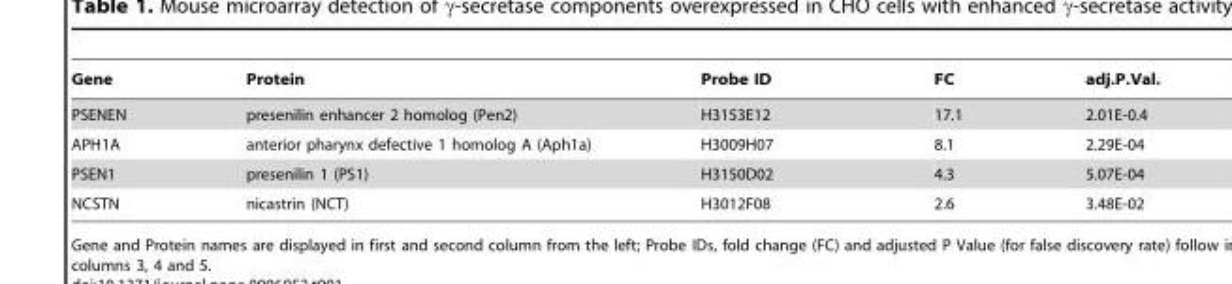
<table><thead><tr><td>Gene</td><td>Protein</td><td>Probe ID</td><td>FC</td><td>adj.P.Val.</td></tr></thead><tbody><tr><td>PSENEN</td><td>presenilin enhancer 2 homolog (Pen2)</td><td>H3153E12</td><td>17.1</td><td>2.01E-0.4</td></tr><tr><td>APH1A</td><td>anterior pharynx defective 1 homolog A (Aph1a)</td><td>H3009H07</td><td>8.1</td><td>2.29E-04</td></tr><tr><td>PSEN1</td><td>presenilin 1 (PS1)</td><td>H3150D02</td><td>4.3</td><td>5.07E-04</td></tr><tr><td>NCSTN</td><td>nicastrin (NCT)</td><td>H3012F08</td><td>2.6</td><td>3.48E-02</td></tr></tbody></table>